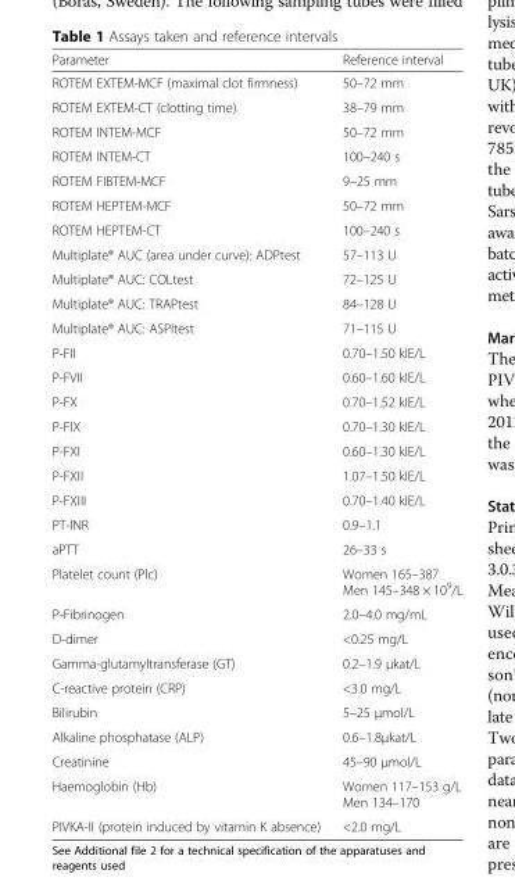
<table><thead><tr><td>Parameter</td><td>Reference interval</td></tr></thead><tbody><tr><td>ROTEM EXTEM-MCF (maximal clot firmness)</td><td>50–72 mm</td></tr><tr><td>ROTEM EXTEM-CT (clotting time)</td><td>38–79 mm</td></tr><tr><td>ROTEM INTEM-MCF</td><td>50–72 mm</td></tr><tr><td>ROTEM INTEM-CT</td><td>100–240 s</td></tr><tr><td>ROTEM FIBTEM-MCF</td><td>9–25 mm</td></tr><tr><td>ROTEM HEPTEM-MCF</td><td>50–72 mm</td></tr><tr><td>ROTEM HEPTEM-CT</td><td>100–240 s</td></tr><tr><td>Multiplate® AUC (area under curve): ADPtest</td><td>57–113 U</td></tr><tr><td>Multiplate® AUC: COLtest</td><td>72–125 U</td></tr><tr><td>Multiplate® AUC: TRAPtest</td><td>84–128 U</td></tr><tr><td>Multiplate® AUC: ASPItest</td><td>71–115 U</td></tr><tr><td>P-FII</td><td>0.70–1.50 kIE/L</td></tr><tr><td>P-FVII</td><td>0.60–1.60 kIE/L</td></tr><tr><td>P-FX</td><td>0.70–1.52 kIE/L</td></tr><tr><td>P-FIX</td><td>0.70–1.30 kIE/L</td></tr><tr><td>P-FXI</td><td>0.60–1.30 kIE/L</td></tr><tr><td>P-FXII</td><td>1.07–1.50 kIE/L</td></tr><tr><td>P-FXIII</td><td>0.70–1.40 kIE/L</td></tr><tr><td>PT-INR</td><td>0.9–1.1</td></tr><tr><td>aPTT</td><td>26–33 s</td></tr><tr><td>Platelet count (Plc)</td><td>Women 165–387 Men 145–348 × 10<sup>9</sup>/L</td></tr><tr><td>P-Fibrinogen</td><td>2.0–4.0 mg/mL</td></tr><tr><td>D-dimer</td><td>&lt;0.25 mg/L</td></tr><tr><td>Gamma-glutamyltransferase (GT)</td><td>0.2–1.9 μkat/L</td></tr><tr><td>C-reactive protein (CRP)</td><td>&lt;3.0 mg/L</td></tr><tr><td>Bilirubin</td><td>5–25 μmol/L</td></tr><tr><td>Alkaline phosphatase (ALP)</td><td>0.6–1.8μkat/L</td></tr><tr><td>Creatinine</td><td>45–90 μmol/L</td></tr><tr><td>Haemoglobin (Hb)</td><td>Women 117–153 g/L Men 134–170</td></tr><tr><td>PIVKA-II (protein induced by vitamin K absence)</td><td>&lt;2.0 mg/L</td></tr></tbody></table>